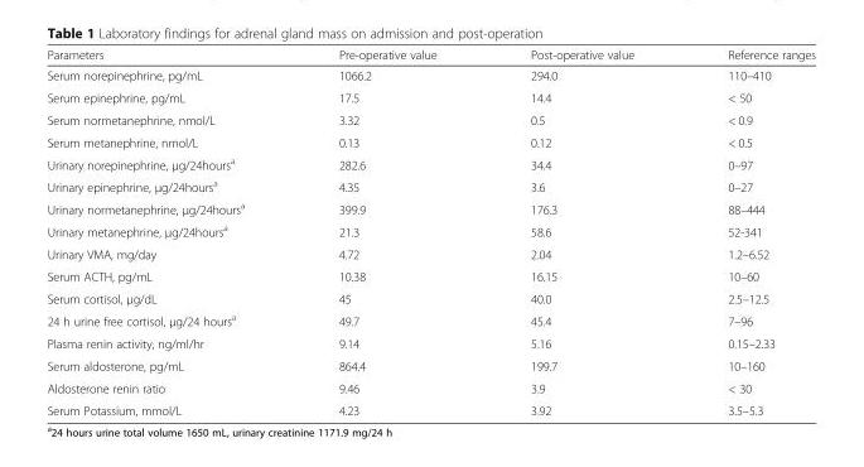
<table><thead><tr><td>Parameters</td><td>Pre-operative value</td><td>Post-operative value</td><td>Reference ranges</td></tr></thead><tbody><tr><td>Serum norepinephrine, pg/mL</td><td>1066.2</td><td>294.0</td><td>110–410</td></tr><tr><td>Serum epinephrine, pg/mL</td><td>17.5</td><td>14.4</td><td>&lt; 50</td></tr><tr><td>Serum normetanephrine, nmol/L</td><td>3.32</td><td>0.5</td><td>&lt; 0.9</td></tr><tr><td>Serum metanephrine, nmol/L</td><td>0.13</td><td>0.12</td><td>&lt; 0.5</td></tr><tr><td>Urinary norepinephrine, μg/24hours<sup>a</sup></td><td>282.6</td><td>34.4</td><td>0–97</td></tr><tr><td>Urinary epinephrine, μg/24hours<sup>a</sup></td><td>4.35</td><td>3.6</td><td>0–27</td></tr><tr><td>Urinary normetanephrine, μg/24hours<sup>a</sup></td><td>399.9</td><td>176.3</td><td>88–444</td></tr><tr><td>Urinary metanephrine, μg/24hours<sup>a</sup></td><td>21.3</td><td>58.6</td><td>52-341</td></tr><tr><td>Urinary VMA, mg/day</td><td>4.72</td><td>2.04</td><td>1.2–6.52</td></tr><tr><td>Serum ACTH, pg/mL</td><td>10.38</td><td>16.15</td><td>10–60</td></tr><tr><td>Serum cortisol, μg/dL</td><td>45</td><td>40.0</td><td>2.5–12.5</td></tr><tr><td>24 h urine free cortisol, μg/24 hours<sup>a</sup></td><td>49.7</td><td>45.4</td><td>7–96</td></tr><tr><td>Plasma renin activity, ng/ml/hr</td><td>9.14</td><td>5.16</td><td>0.15–2.33</td></tr><tr><td>Serum aldosterone, pg/mL</td><td>864.4</td><td>199.7</td><td>10–160</td></tr><tr><td>Aldosterone renin ratio</td><td>9.46</td><td>3.9</td><td>&lt; 30</td></tr><tr><td>Serum Potassium, mmol/L</td><td>4.23</td><td>3.92</td><td>3.5–5.3</td></tr></tbody></table>